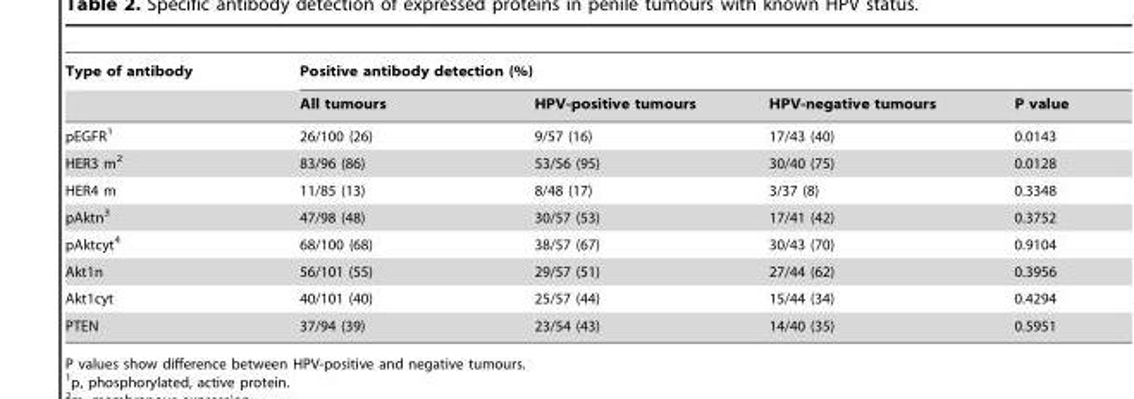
<table><thead><tr><td rowspan="2">Type of antibody</td><td colspan="4">Positive antibody detection (%)</td></tr><tr><td>All tumours</td><td>HPV-positive tumours</td><td>HPV-negative tumours</td><td>P value</td></tr></thead><tbody><tr><td>pEGFR<sup>1</sup></td><td>26/100 (26)</td><td>9/57 (16)</td><td>17/43 (40)</td><td>0.0143</td></tr><tr><td>HER3 m<sup>2</sup></td><td>83/96 (86)</td><td>53/56 (95)</td><td>30/40 (75)</td><td>0.0128</td></tr><tr><td>HER4 m</td><td>11/85 (13)</td><td>8/48 (17)</td><td>3/37 (8)</td><td>0.3348</td></tr><tr><td>pAktn<sup>3</sup></td><td>47/98 (48)</td><td>30/57 (53)</td><td>17/41 (42)</td><td>0.3752</td></tr><tr><td>pAktcyt<sup>4</sup></td><td>68/100 (68)</td><td>38/57 (67)</td><td>30/43 (70)</td><td>0.9104</td></tr><tr><td>Akt1n</td><td>56/101 (55)</td><td>29/57 (51)</td><td>27/44 (62)</td><td>0.3956</td></tr><tr><td>Akt1cyt</td><td>40/101 (40)</td><td>25/57 (44)</td><td>15/44 (34)</td><td>0.4294</td></tr><tr><td>PTEN</td><td>37/94 (39)</td><td>23/54 (43)</td><td>14/40 (35)</td><td>0.5951</td></tr></tbody></table>